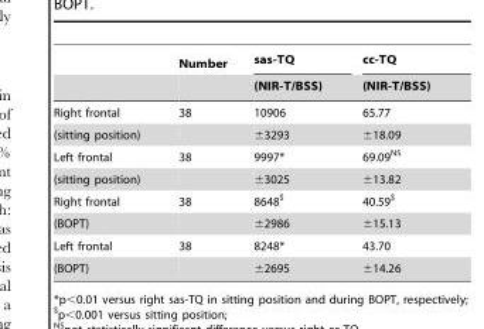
<table><thead><tr><td rowspan="2"></td><td rowspan="2">Number</td><td rowspan="2">sas-TQ (NIR-T/BSS)</td><td rowspan="2">cc-TQ (NIR-T/BSS)</td></tr><tr></tr></thead><tbody><tr><td>Right frontal</td><td>38</td><td>10906</td><td>65.77</td></tr><tr><td>(sitting position)</td><td></td><td>±3293</td><td>±18.09</td></tr><tr><td>Left frontal</td><td>38</td><td>9997*</td><td>69.09<sup>NS</sup></td></tr><tr><td>(sitting position)</td><td></td><td>±3025</td><td>±13.82</td></tr><tr><td>Right frontal</td><td>38</td><td>8648$</td><td>40.59$</td></tr><tr><td>(BOPT)</td><td></td><td>±2986</td><td>±15.13</td></tr><tr><td>Left frontal</td><td>38</td><td>8248*</td><td>43.70</td></tr><tr><td>(BOPT)</td><td></td><td>±2695</td><td>±14.26</td></tr></tbody></table>